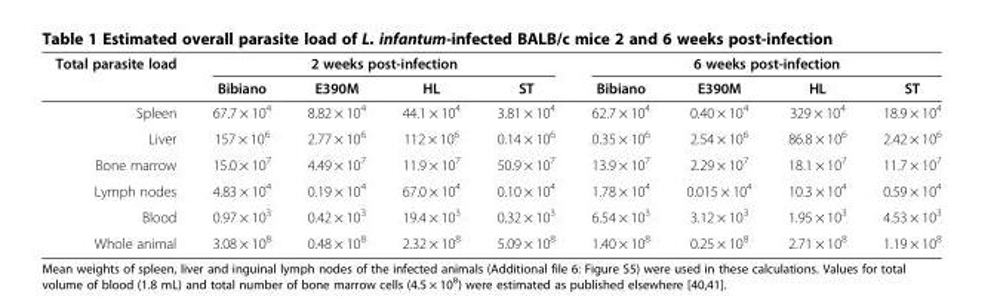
<table><thead><tr><td rowspan="2">Total parasite load</td><td colspan="4">2 weeks post-infection</td><td colspan="4">6 weeks post-infection</td></tr><tr><td>Bibiano</td><td>E390M</td><td>HL</td><td>ST</td><td>Bibiano</td><td>E390M</td><td>HL</td><td>ST</td></tr></thead><tbody><tr><td>Spleen</td><td>67.7 × 10<sup>4</sup></td><td>8.82 × 10<sup>4</sup></td><td>44.1 × 10<sup>4</sup></td><td>3.81 × 10<sup>4</sup></td><td>62.7 × 10<sup>4</sup></td><td>0.40 × 10<sup>4</sup></td><td>329 × 10<sup>4</sup></td><td>18.9 × 10<sup>4</sup></td></tr><tr><td>Liver</td><td>157 × 10<sup>6</sup></td><td>2.77 × 10<sup>6</sup></td><td>112 × 10<sup>6</sup></td><td>0.14 × 10<sup>6</sup></td><td>0.35 × 10<sup>6</sup></td><td>2.54 × 10<sup>6</sup></td><td>86.8 × 10<sup>6</sup></td><td>2.42 × 10<sup>6</sup></td></tr><tr><td>Bone marrow</td><td>15.0 × 10<sup>7</sup></td><td>4.49 × 10<sup>7</sup></td><td>11.9 × 10<sup>7</sup></td><td>50.9 × 10<sup>7</sup></td><td>13.9 × 10<sup>7</sup></td><td>2.29 × 10<sup>7</sup></td><td>18.1 × 10<sup>7</sup></td><td>11.7 × 10<sup>7</sup></td></tr><tr><td>Lymph nodes</td><td>4.83 × 10<sup>4</sup></td><td>0.19 × 10<sup>4</sup></td><td>67.0 × 10<sup>4</sup></td><td>0.10 × 10<sup>4</sup></td><td>1.78 × 10<sup>4</sup></td><td>0.015 × 10<sup>4</sup></td><td>10.3 × 10<sup>4</sup></td><td>0.59 × 10<sup>4</sup></td></tr><tr><td>Blood</td><td>0.97 × 10<sup>3</sup></td><td>0.42 × 10<sup>3</sup></td><td>19.4 × 10<sup>3</sup></td><td>0.32 × 10<sup>3</sup></td><td>6.54 × 10<sup>3</sup></td><td>3.12 × 10<sup>3</sup></td><td>1.95 × 10<sup>3</sup></td><td>4.53 × 10<sup>3</sup></td></tr><tr><td>Whole animal</td><td>3.08 × 10<sup>8</sup></td><td>0.48 × 10<sup>8</sup></td><td>2.32 × 10<sup>8</sup></td><td>5.09 × 10<sup>8</sup></td><td>1.40 × 10<sup>8</sup></td><td>0.25 × 10<sup>8</sup></td><td>2.71 × 10<sup>8</sup></td><td>1.19 × 10<sup>8</sup></td></tr></tbody></table>